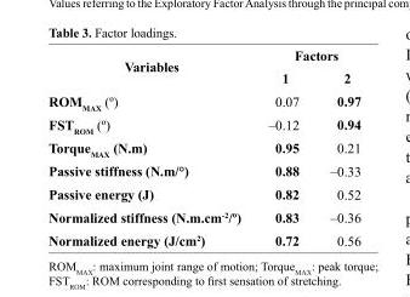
<table><thead><tr><td rowspan="2">Variables</td><td colspan="2">Factors</td></tr><tr><td>1</td><td>2</td></tr></thead><tbody><tr><td>ROM<sub>MAX</sub> (º)</td><td>0.07</td><td>0.97</td></tr><tr><td>FST<sub>ROM</sub> (º)</td><td>–0.12</td><td>0.94</td></tr><tr><td>Torque<sub>MAX</sub> (N.m)</td><td>0.95</td><td>0.21</td></tr><tr><td>Passive stiffness (N.m/°)</td><td>0.88</td><td>–0.33</td></tr><tr><td>Passive energy (J)</td><td>0.82</td><td>0.52</td></tr><tr><td>Normalized stiffness (N.m.cm<sup>-2</sup>/º)</td><td>0.83</td><td>–0.36</td></tr><tr><td>Normalized energy (J/cm<sup>2</sup>)</td><td>0.72</td><td>0.56</td></tr></tbody></table>